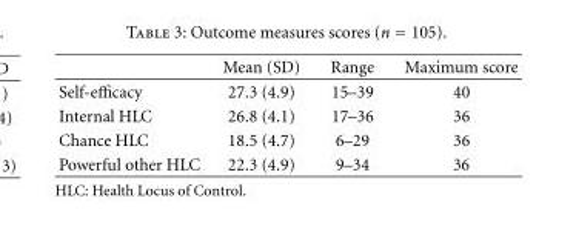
<table><thead><tr><td></td><td>Mean (SD)</td><td>Range</td><td>Maximum score</td></tr></thead><tbody><tr><td>Self-efficacy</td><td>27.3 (4.9)</td><td>15–39</td><td>40</td></tr><tr><td>Internal HLC</td><td>26.8 (4.1)</td><td>17–36</td><td>36</td></tr><tr><td>Chance HLC</td><td>18.5 (4.7)</td><td>6–29</td><td>36</td></tr><tr><td>Powerful other HLC</td><td>22.3 (4.9)</td><td>9–34</td><td>36</td></tr></tbody></table>